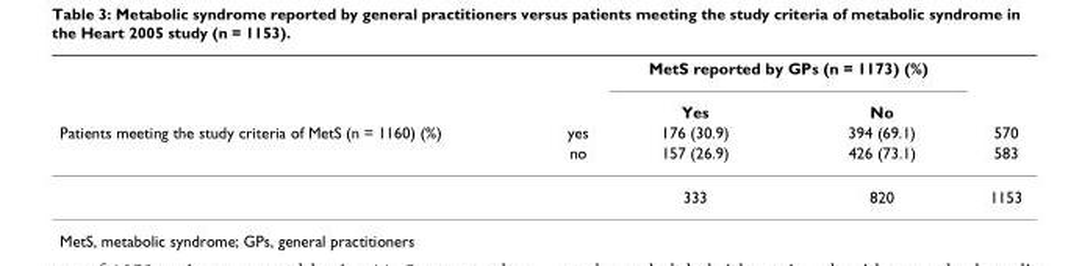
<table><thead><tr><td rowspan="4">Patients meeting the study criteria of MetS (n = 1160) (%)</td><td rowspan="4">yes no</td><td colspan="2">MetS reported by GPs (n = 1173) (%)</td><td rowspan="4">570 583</td></tr><tr><td rowspan="3">Yes 176 (30.9) 157 (26.9)</td><td rowspan="3">No 394 (69.1) 426 (73.1)</td></tr><tr></tr><tr></tr></thead><tbody><tr><td></td><td></td><td>333</td><td>820</td><td>1153</td></tr></tbody></table>